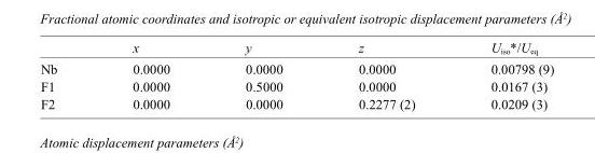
<table><thead><tr><td></td><td>x</td><td>y</td><td>z</td><td>U<sub>iso</sub>*/U<sub>eq</sub></td></tr></thead><tbody><tr><td>Nb</td><td>0.0000</td><td>0.0000</td><td>0.0000</td><td>0.00798 (9)</td></tr><tr><td>F1</td><td>0.0000</td><td>0.5000</td><td>0.0000</td><td>0.0167 (3)</td></tr><tr><td>F2</td><td>0.0000</td><td>0.0000</td><td>0.2277 (2)</td><td>0.0209 (3)</td></tr></tbody></table>